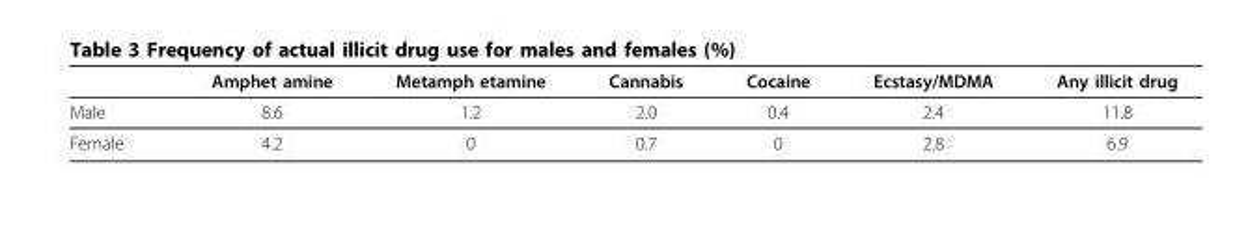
<table><thead><tr><td></td><td>Amphet amine</td><td>Metamph etamine</td><td>Cannabis</td><td>Cocaine</td><td>Ecstasy/MDMA</td><td>Any illicit drug</td></tr></thead><tbody><tr><td>Male</td><td>8.6</td><td>1.2</td><td>2.0</td><td>0.4</td><td>2.4</td><td>11.8</td></tr><tr><td>Female</td><td>4.2</td><td>0</td><td>0.7</td><td>0</td><td>2.8</td><td>6.9</td></tr></tbody></table>